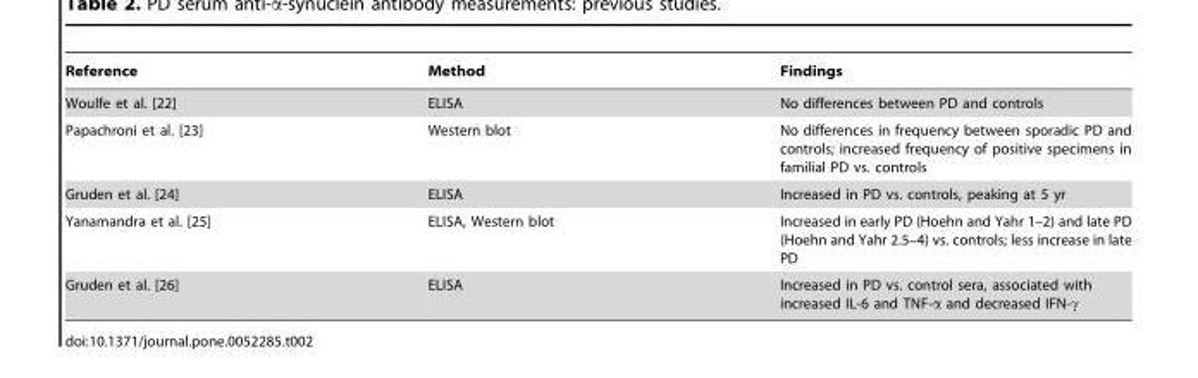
<table><thead><tr><td>Reference</td><td>Method</td><td>Findings</td></tr></thead><tbody><tr><td>Woulfe et al. [22]</td><td>ELISA</td><td>No differences between PD and controls</td></tr><tr><td>Papachroni et al. [23]</td><td>Western blot</td><td>No differences in frequency between sporadic PD and controls; increased frequency of positive specimens in familial PD vs. controls</td></tr><tr><td>Gruden et al. [24]</td><td>ELISA</td><td>Increased in PD vs. controls, peaking at 5 yr</td></tr><tr><td>Yanamandra et al. [25]</td><td>ELISA, Western blot</td><td>Increased in early PD (Hoehn and Yahr 1–2) and late PD (Hoehn and Yahr 2.5–4) vs. controls; less increase in late PD</td></tr><tr><td>Gruden et al. [26]</td><td>ELISA</td><td>Increased in PD vs. control sera, associated with increased IL-6 and TNF-α and decreased IFN-γ</td></tr></tbody></table>